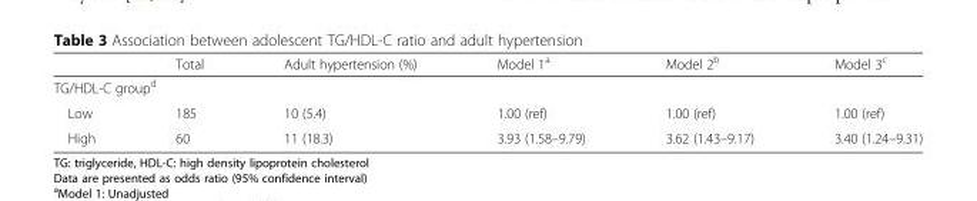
<table><thead><tr><td></td><td>Total</td><td>Adult hypertension (%)</td><td>Model 1<sup>a</sup></td><td>Model 2<sup>b</sup></td><td>Model 3<sup>c</sup></td></tr></thead><tbody><tr><td colspan="6">TG/HDL-C group<sup>d</sup></td></tr><tr><td>Low</td><td>185</td><td>10 (5.4)</td><td>1.00 (ref)</td><td>1.00 (ref)</td><td>1.00 (ref)</td></tr><tr><td>High</td><td>60</td><td>11 (18.3)</td><td>3.93 (1.58–9.79)</td><td>3.62 (1.43–9.17)</td><td>3.40 (1.24–9.31)</td></tr></tbody></table>